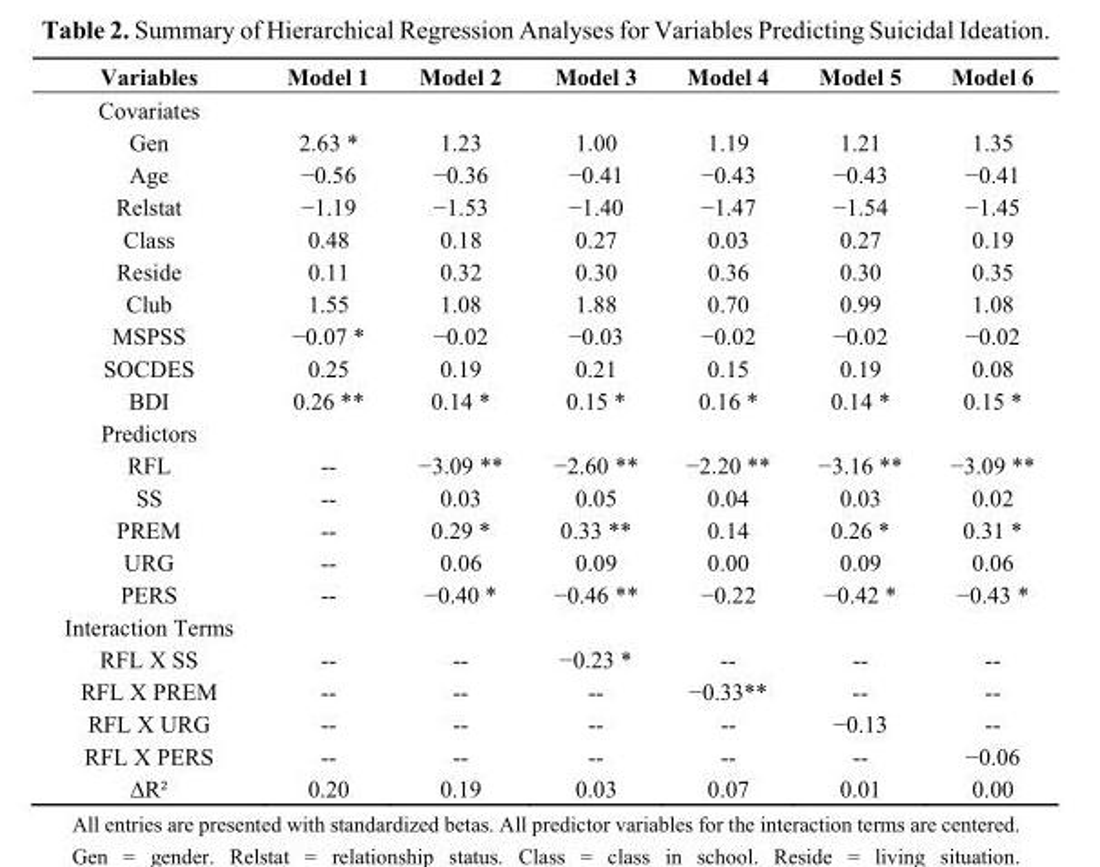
<table><thead><tr><td>Variables</td><td>Model 1</td><td>Model 2</td><td>Model 3</td><td>Model 4</td><td>Model 5</td><td>Model 6</td></tr></thead><tbody><tr><td colspan="7">Covariates</td></tr><tr><td>Gen</td><td>2.63 *</td><td>1.23</td><td>1.00</td><td>1.19</td><td>1.21</td><td>1.35</td></tr><tr><td>Age</td><td>−0.56</td><td>−0.36</td><td>−0.41</td><td>−0.43</td><td>−0.43</td><td>−0.41</td></tr><tr><td>Relstat</td><td>−1.19</td><td>−1.53</td><td>−1.40</td><td>−1.47</td><td>−1.54</td><td>−1.45</td></tr><tr><td>Class</td><td>0.48</td><td>0.18</td><td>0.27</td><td>0.03</td><td>0.27</td><td>0.19</td></tr><tr><td>Reside</td><td>0.11</td><td>0.32</td><td>0.30</td><td>0.36</td><td>0.30</td><td>0.35</td></tr><tr><td>Club</td><td>1.55</td><td>1.08</td><td>1.88</td><td>0.70</td><td>0.99</td><td>1.08</td></tr><tr><td>MSPSS</td><td>−0.07 *</td><td>−0.02</td><td>−0.03</td><td>−0.02</td><td>−0.02</td><td>−0.02</td></tr><tr><td>SOCDES</td><td>0.25</td><td>0.19</td><td>0.21</td><td>0.15</td><td>0.19</td><td>0.08</td></tr><tr><td>BDI</td><td>0.26 **</td><td>0.14 *</td><td>0.15 *</td><td>0.16 *</td><td>0.14 *</td><td>0.15 *</td></tr><tr><td colspan="7">Predictors</td></tr><tr><td>RFL</td><td>--</td><td>−3.09 **</td><td>−2.60 **</td><td>−2.20 **</td><td>−3.16 **</td><td>−3.09 **</td></tr><tr><td>SS</td><td>--</td><td>0.03</td><td>0.05</td><td>0.04</td><td>0.03</td><td>0.02</td></tr><tr><td>PREM</td><td>--</td><td>0.29 *</td><td>0.33 **</td><td>0.14</td><td>0.26 *</td><td>0.31 *</td></tr><tr><td>URG</td><td>--</td><td>0.06</td><td>0.09</td><td>0.00</td><td>0.09</td><td>0.06</td></tr><tr><td>PERS</td><td>--</td><td>−0.40 *</td><td>−0.46 **</td><td>−0.22</td><td>−0.42 *</td><td>−0.43 *</td></tr><tr><td colspan="7">Interaction Terms</td></tr><tr><td>RFL X SS</td><td>--</td><td>--</td><td>−0.23 *</td><td>--</td><td>--</td><td>--</td></tr><tr><td>RFL X PREM</td><td>--</td><td>--</td><td>--</td><td>−0.33**</td><td>--</td><td>--</td></tr><tr><td>RFL X URG</td><td>--</td><td>--</td><td>--</td><td>--</td><td>−0.13</td><td>--</td></tr><tr><td>RFL X PERS</td><td>--</td><td>--</td><td>--</td><td>--</td><td>--</td><td>−0.06</td></tr><tr><td>∆R²</td><td>0.20</td><td>0.19</td><td>0.03</td><td>0.07</td><td>0.01</td><td>0.00</td></tr></tbody></table>